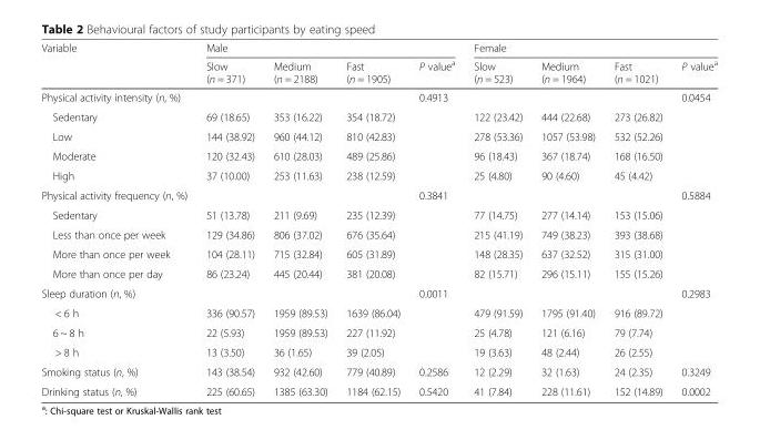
<table><thead><tr><td rowspan="2">Variable</td><td colspan="4">Male</td><td colspan="4">Female</td></tr><tr><td>Slow (n = 371)</td><td>Medium (n = 2188)</td><td>Fast (n = 1905)</td><td>P value<sup>a</sup></td><td>Slow (n = 523)</td><td>Medium (n = 1964)</td><td>Fast (n = 1021)</td><td>P value<sup>a</sup></td></tr></thead><tbody><tr><td>Physical activity intensity (n, %)</td><td></td><td></td><td></td><td>0.4913</td><td></td><td></td><td></td><td>0.0454</td></tr><tr><td>Sedentary</td><td>69 (18.65)</td><td>353 (16.22)</td><td>354 (18.72)</td><td></td><td>122 (23.42)</td><td>444 (22.68)</td><td>273 (26.82)</td><td></td></tr><tr><td>Low</td><td>144 (38.92)</td><td>960 (44.12)</td><td>810 (42.83)</td><td></td><td>278 (53.36)</td><td>1057 (53.98)</td><td>532 (52.26)</td><td></td></tr><tr><td>Moderate</td><td>120 (32.43)</td><td>610 (28.03)</td><td>489 (25.86)</td><td></td><td>96 (18.43)</td><td>367 (18.74)</td><td>168 (16.50)</td><td></td></tr><tr><td>High</td><td>37 (10.00)</td><td>253 (11.63)</td><td>238 (12.59)</td><td></td><td>25 (4.80)</td><td>90 (4.60)</td><td>45 (4.42)</td><td></td></tr><tr><td>Physical activity frequency (n, %)</td><td></td><td></td><td></td><td>0.3841</td><td></td><td></td><td></td><td>0.5884</td></tr><tr><td>Sedentary</td><td>51 (13.78)</td><td>211 (9.69)</td><td>235 (12.39)</td><td></td><td>77 (14.75)</td><td>277 (14.14)</td><td>153 (15.06)</td><td></td></tr><tr><td>Less than once per week</td><td>129 (34.86)</td><td>806 (37.02)</td><td>676 (35.64)</td><td></td><td>215 (41.19)</td><td>749 (38.23)</td><td>393 (38.68)</td><td></td></tr><tr><td>More than once per week</td><td>104 (28.11)</td><td>715 (32.84)</td><td>605 (31.89)</td><td></td><td>148 (28.35)</td><td>637 (32.52)</td><td>315 (31.00)</td><td></td></tr><tr><td>More than once per day</td><td>86 (23.24)</td><td>445 (20.44)</td><td>381 (20.08)</td><td></td><td>82 (15.71)</td><td>296 (15.11)</td><td>155 (15.26)</td><td></td></tr><tr><td>Sleep duration (n, %)</td><td></td><td></td><td></td><td>0.0011</td><td></td><td></td><td></td><td>0.2983</td></tr><tr><td>&lt; 6 h</td><td>336 (90.57)</td><td>1959 (89.53)</td><td>1639 (86.04)</td><td></td><td>479 (91.59)</td><td>1795 (91.40)</td><td>916 (89.72)</td><td></td></tr><tr><td>6 ~ 8 h</td><td>22 (5.93)</td><td>1959 (89.53)</td><td>227 (11.92)</td><td></td><td>25 (4.78)</td><td>121 (6.16)</td><td>79 (7.74)</td><td></td></tr><tr><td>&gt; 8 h</td><td>13 (3.50)</td><td>36 (1.65)</td><td>39 (2.05)</td><td></td><td>19 (3.63)</td><td>48 (2.44)</td><td>26 (2.55)</td><td></td></tr><tr><td>Smoking status (n, %)</td><td>143 (38.54)</td><td>932 (42.60)</td><td>779 (40.89)</td><td>0.2586</td><td>12 (2.29)</td><td>32 (1.63)</td><td>24 (2.35)</td><td>0.3249</td></tr><tr><td>Drinking status (n, %)</td><td>225 (60.65)</td><td>1385 (63.30)</td><td>1184 (62.15)</td><td>0.5420</td><td>41 (7.84)</td><td>228 (11.61)</td><td>152 (14.89)</td><td>0.0002</td></tr></tbody></table>